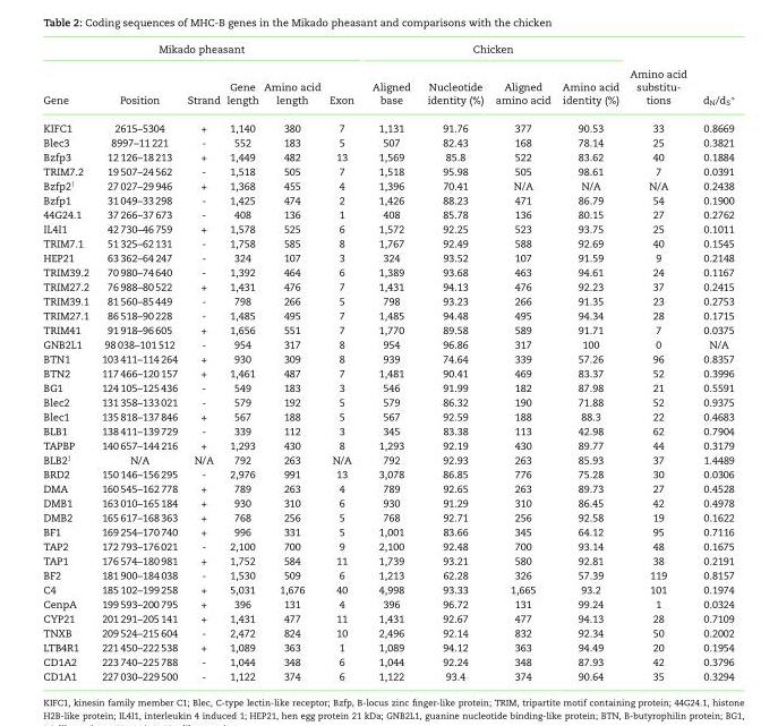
<table><thead><tr><td colspan="6">Mikado pheasant</td><td colspan="4">Chicken</td><td rowspan="2">Amino acid substitu- tions</td><td rowspan="2">dN/dS∗</td></tr><tr><td>Gene</td><td>Position</td><td>Strand</td><td>Gene length</td><td>Amino acid length</td><td>Exon</td><td>Aligned base</td><td>Nucleotide identity (%)</td><td>Aligned amino acid</td><td>Amino acid identity (%)</td></tr></thead><tbody><tr><td>KIFC1</td><td>2615–5304</td><td>+</td><td>1,140</td><td>380</td><td>7</td><td>1,131</td><td>91.76</td><td>377</td><td>90.53</td><td>33</td><td>0.8669</td></tr><tr><td>Blec3</td><td>8997–11 221</td><td>-</td><td>552</td><td>183</td><td>5</td><td>507</td><td>82.43</td><td>168</td><td>78.14</td><td>25</td><td>0.3821</td></tr><tr><td>Bzfp3</td><td>12 126–18 213</td><td>+</td><td>1,449</td><td>482</td><td>13</td><td>1,569</td><td>85.8</td><td>522</td><td>83.62</td><td>40</td><td>0.1884</td></tr><tr><td>TRIM7.2</td><td>19 507–24 562</td><td>-</td><td>1,518</td><td>505</td><td>7</td><td>1,518</td><td>95.98</td><td>505</td><td>98.61</td><td>7</td><td>0.0391</td></tr><tr><td>Bzfp2<sup>†</sup></td><td>27 027–29 946</td><td>+</td><td>1,368</td><td>455</td><td>4</td><td>1,396</td><td>70.41</td><td>N/A</td><td>N/A</td><td>N/A</td><td>0.2438</td></tr><tr><td>Bzfp1</td><td>31 049–33 298</td><td>-</td><td>1,425</td><td>474</td><td>2</td><td>1,426</td><td>88.23</td><td>471</td><td>86.79</td><td>54</td><td>0.1900</td></tr><tr><td>44G24.1</td><td>37 266–37 673</td><td>-</td><td>408</td><td>136</td><td>1</td><td>408</td><td>85.78</td><td>136</td><td>80.15</td><td>27</td><td>0.2762</td></tr><tr><td>IL4I1</td><td>42 730–46 759</td><td>+</td><td>1,578</td><td>525</td><td>6</td><td>1,572</td><td>92.25</td><td>523</td><td>93.75</td><td>25</td><td>0.1011</td></tr><tr><td>TRIM7.1</td><td>51 325–62 131</td><td>-</td><td>1,758</td><td>585</td><td>8</td><td>1,767</td><td>92.49</td><td>588</td><td>92.69</td><td>40</td><td>0.1545</td></tr><tr><td>HEP21</td><td>63 362–64 247</td><td>-</td><td>324</td><td>107</td><td>3</td><td>324</td><td>93.52</td><td>107</td><td>91.59</td><td>9</td><td>0.2148</td></tr><tr><td>TRIM39.2</td><td>70 980–74 640</td><td>-</td><td>1,392</td><td>464</td><td>6</td><td>1,389</td><td>93.68</td><td>463</td><td>94.61</td><td>24</td><td>0.1167</td></tr><tr><td>TRIM27.2</td><td>76 988–80 522</td><td>+</td><td>1,431</td><td>476</td><td>7</td><td>1,431</td><td>94.13</td><td>476</td><td>92.23</td><td>37</td><td>0.2415</td></tr><tr><td>TRIM39.1</td><td>81 560–85 449</td><td>-</td><td>798</td><td>266</td><td>5</td><td>798</td><td>93.23</td><td>266</td><td>91.35</td><td>23</td><td>0.2753</td></tr><tr><td>TRIM27.1</td><td>86 518–90 228</td><td>-</td><td>1,485</td><td>495</td><td>7</td><td>1,485</td><td>94.48</td><td>495</td><td>94.34</td><td>28</td><td>0.1715</td></tr><tr><td>TRIM41</td><td>91 918–96 605</td><td>+</td><td>1,656</td><td>551</td><td>7</td><td>1,770</td><td>89.58</td><td>589</td><td>91.71</td><td>7</td><td>0.0375</td></tr><tr><td>GNB2L1</td><td>98 038–101 512</td><td>-</td><td>954</td><td>317</td><td>8</td><td>954</td><td>96.86</td><td>317</td><td>100</td><td>0</td><td>N/A</td></tr><tr><td>BTN1</td><td>103 411–114 264</td><td>+</td><td>930</td><td>309</td><td>8</td><td>939</td><td>74.64</td><td>339</td><td>57.26</td><td>96</td><td>0.8357</td></tr><tr><td>BTN2</td><td>117 466–120 157</td><td>+</td><td>1,461</td><td>487</td><td>7</td><td>1,481</td><td>90.41</td><td>469</td><td>83.37</td><td>52</td><td>0.3996</td></tr><tr><td>BG1</td><td>124 105–125 436</td><td>-</td><td>549</td><td>183</td><td>3</td><td>546</td><td>91.99</td><td>182</td><td>87.98</td><td>21</td><td>0.5591</td></tr><tr><td>Blec2</td><td>131 358–133 021</td><td>-</td><td>579</td><td>192</td><td>5</td><td>579</td><td>86.32</td><td>190</td><td>71.88</td><td>52</td><td>0.9375</td></tr><tr><td>Blec1</td><td>135 818–137 846</td><td>+</td><td>567</td><td>188</td><td>5</td><td>567</td><td>92.59</td><td>188</td><td>88.3</td><td>22</td><td>0.4683</td></tr><tr><td>BLB1</td><td>138 411–139 729</td><td>-</td><td>339</td><td>112</td><td>3</td><td>345</td><td>83.38</td><td>113</td><td>42.98</td><td>62</td><td>0.7904</td></tr><tr><td>TAPBP</td><td>140 657–144 216</td><td>+</td><td>1,293</td><td>430</td><td>8</td><td>1,293</td><td>92.19</td><td>430</td><td>89.77</td><td>44</td><td>0.3179</td></tr><tr><td>BLB2<sup>‡</sup></td><td>N/A</td><td>N/A</td><td>792</td><td>263</td><td>N/A</td><td>792</td><td>92.93</td><td>263</td><td>85.93</td><td>37</td><td>1.4489</td></tr><tr><td>BRD2</td><td>150 146–156 295</td><td>-</td><td>2,976</td><td>991</td><td>13</td><td>3,078</td><td>86.85</td><td>776</td><td>75.28</td><td>30</td><td>0.0306</td></tr><tr><td>DMA</td><td>160 545–162 778</td><td>+</td><td>789</td><td>263</td><td>4</td><td>789</td><td>92.65</td><td>263</td><td>89.73</td><td>27</td><td>0.4528</td></tr><tr><td>DMB1</td><td>163 010–165 184</td><td>+</td><td>930</td><td>310</td><td>6</td><td>930</td><td>91.29</td><td>310</td><td>86.45</td><td>42</td><td>0.4978</td></tr><tr><td>DMB2</td><td>165 617–168 363</td><td>+</td><td>768</td><td>256</td><td>5</td><td>768</td><td>92.71</td><td>256</td><td>92.58</td><td>19</td><td>0.1622</td></tr><tr><td>BF1</td><td>169 254–170 740</td><td>+</td><td>996</td><td>331</td><td>5</td><td>1,001</td><td>83.66</td><td>345</td><td>64.12</td><td>95</td><td>0.7116</td></tr><tr><td>TAP2</td><td>172 793–176 021</td><td>-</td><td>2,100</td><td>700</td><td>9</td><td>2,100</td><td>92.48</td><td>700</td><td>93.14</td><td>48</td><td>0.1675</td></tr><tr><td>TAP1</td><td>176 574–180 981</td><td>+</td><td>1,752</td><td>584</td><td>11</td><td>1,739</td><td>93.21</td><td>580</td><td>92.81</td><td>38</td><td>0.2191</td></tr><tr><td>BF2</td><td>181 900–184 038</td><td>-</td><td>1,530</td><td>509</td><td>6</td><td>1,213</td><td>62.28</td><td>326</td><td>57.39</td><td>119</td><td>0.8157</td></tr><tr><td>C4</td><td>185 102–199 258</td><td>+</td><td>5,031</td><td>1,676</td><td>40</td><td>4,998</td><td>93.33</td><td>1,665</td><td>93.2</td><td>101</td><td>0.1974</td></tr><tr><td>CenpA</td><td>199 593–200 795</td><td>+</td><td>396</td><td>131</td><td>4</td><td>396</td><td>96.72</td><td>131</td><td>99.24</td><td>1</td><td>0.0324</td></tr><tr><td>CYP21</td><td>201 291–205 141</td><td>+</td><td>1,431</td><td>477</td><td>11</td><td>1,431</td><td>92.67</td><td>477</td><td>94.13</td><td>28</td><td>0.7109</td></tr><tr><td>TNXB</td><td>209 524–215 604</td><td>-</td><td>2,472</td><td>824</td><td>10</td><td>2,496</td><td>92.14</td><td>832</td><td>92.34</td><td>50</td><td>0.2002</td></tr><tr><td>LTB4R1</td><td>221 450–222 538</td><td>+</td><td>1,089</td><td>363</td><td>1</td><td>1,089</td><td>94.12</td><td>363</td><td>94.49</td><td>20</td><td>0.1954</td></tr><tr><td>CD1A2</td><td>223 740–225 788</td><td>-</td><td>1,044</td><td>348</td><td>6</td><td>1,044</td><td>92.24</td><td>348</td><td>87.93</td><td>42</td><td>0.3796</td></tr><tr><td>CD1A1</td><td>227 030–229 500</td><td>-</td><td>1,122</td><td>374</td><td>6</td><td>1,122</td><td>93.4</td><td>374</td><td>90.64</td><td>35</td><td>0.3294</td></tr></tbody></table>